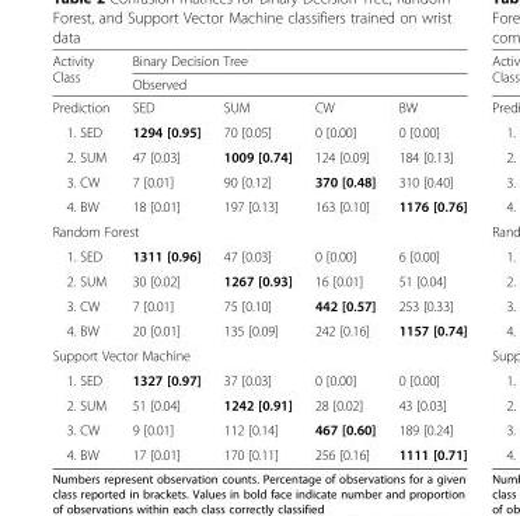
<table><thead><tr><td rowspan="3">Activity Class Prediction</td><td rowspan="2" colspan="4">Binary Decision Tree Observed</td></tr><tr></tr><tr><td>SED</td><td>SUM</td><td>CW</td><td>BW</td></tr></thead><tbody><tr><td>1. SED</td><td>1294 [0.95]</td><td>70 [0.05]</td><td>0 [0.00]</td><td>0 [0.00]</td></tr><tr><td>2. SUM</td><td>47 [0.03]</td><td>1009 [0.74]</td><td>124 [0.09]</td><td>184 [0.13]</td></tr><tr><td>3. CW</td><td>7 [0.01]</td><td>90 [0.12]</td><td>370 [0.48]</td><td>310 [0.40]</td></tr><tr><td>4. BW</td><td>18 [0.01]</td><td>197 [0.13]</td><td>163 [0.10]</td><td>1176 [0.76]</td></tr><tr><td colspan="5">Random Forest</td></tr><tr><td>1. SED</td><td>1311 [0.96]</td><td>47 [0.03]</td><td>0 [0.00]</td><td>6 [0.00]</td></tr><tr><td>2. SUM</td><td>30 [0.02]</td><td>1267 [0.93]</td><td>16 [0.01]</td><td>51 [0.04]</td></tr><tr><td>3. CW</td><td>7 [0.01]</td><td>75 [0.10]</td><td>442 [0.57]</td><td>253 [0.33]</td></tr><tr><td>4. BW</td><td>20 [0.01]</td><td>135 [0.09]</td><td>242 [0.16]</td><td>1157 [0.74]</td></tr><tr><td colspan="5">Support Vector Machine</td></tr><tr><td>1. SED</td><td>1327 [0.97]</td><td>37 [0.03]</td><td>0 [0.00]</td><td>0 [0.00]</td></tr><tr><td>2. SUM</td><td>51 [0.04]</td><td>1242 [0.91]</td><td>28 [0.02]</td><td>43 [0.03]</td></tr><tr><td>3. CW</td><td>9 [0.01]</td><td>112 [0.14]</td><td>467 [0.60]</td><td>189 [0.24]</td></tr><tr><td>4. BW</td><td>17 [0.01]</td><td>170 [0.11]</td><td>256 [0.16]</td><td>1111 [0.71]</td></tr></tbody></table>